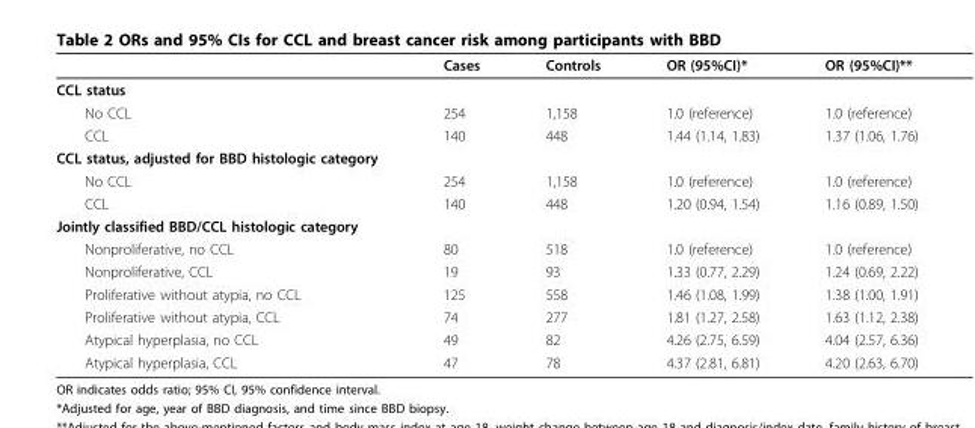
<table><thead><tr><td></td><td>Cases</td><td>Controls</td><td>OR (95%CI)*</td><td>OR (95%CI)**</td></tr></thead><tbody><tr><td colspan="5">CCL status</td></tr><tr><td>No CCL</td><td>254</td><td>1,158</td><td>1.0 (reference)</td><td>1.0 (reference)</td></tr><tr><td>CCL</td><td>140</td><td>448</td><td>1.44 (1.14, 1.83)</td><td>1.37 (1.06, 1.76)</td></tr><tr><td colspan="5">CCL status, adjusted for BBD histologic category</td></tr><tr><td>No CCL</td><td>254</td><td>1,158</td><td>1.0 (reference)</td><td>1.0 (reference)</td></tr><tr><td>CCL</td><td>140</td><td>448</td><td>1.20 (0.94, 1.54)</td><td>1.16 (0.89, 1.50)</td></tr><tr><td colspan="5">Jointly classified BBD/CCL histologic category</td></tr><tr><td>Nonproliferative, no CCL</td><td>80</td><td>518</td><td>1.0 (reference)</td><td>1.0 (reference)</td></tr><tr><td>Nonproliferative, CCL</td><td>19</td><td>93</td><td>1.33 (0.77, 2.29)</td><td>1.24 (0.69, 2.22)</td></tr><tr><td>Proliferative without atypia, no CCL</td><td>125</td><td>558</td><td>1.46 (1.08, 1.99)</td><td>1.38 (1.00, 1.91)</td></tr><tr><td>Proliferative without atypia, CCL</td><td>74</td><td>277</td><td>1.81 (1.27, 2.58)</td><td>1.63 (1.12, 2.38)</td></tr><tr><td>Atypical hyperplasia, no CCL</td><td>49</td><td>82</td><td>4.26 (2.75, 6.59)</td><td>4.04 (2.57, 6.36)</td></tr><tr><td>Atypical hyperplasia, CCL</td><td>47</td><td>78</td><td>4.37 (2.81, 6.81)</td><td>4.20 (2.63, 6.70)</td></tr></tbody></table>